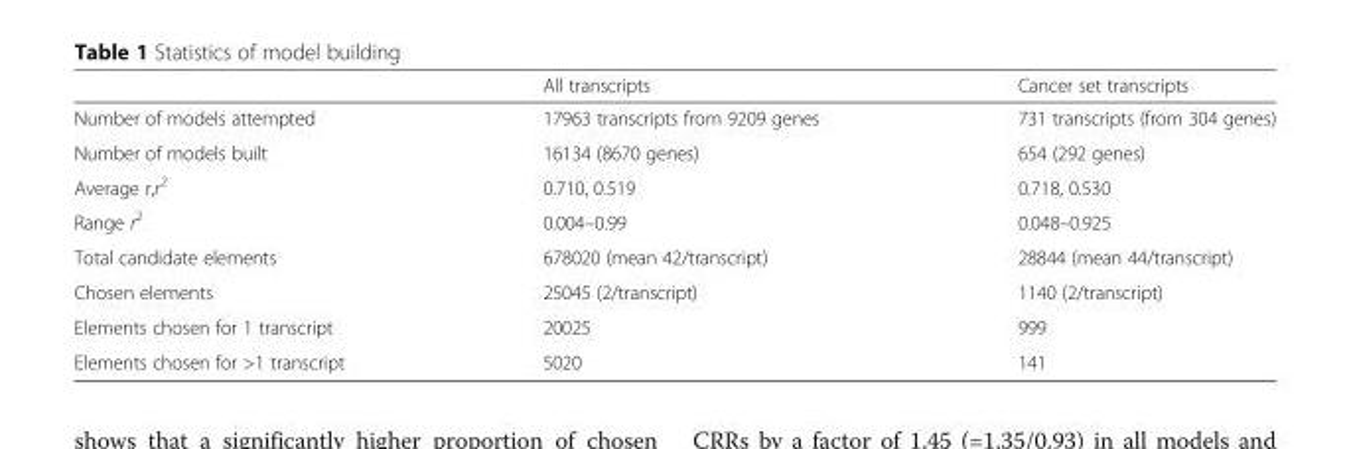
<table><thead><tr><td></td><td>All transcripts</td><td>Cancer set transcripts</td></tr></thead><tbody><tr><td>Number of models attempted</td><td>17963 transcripts from 9209 genes</td><td>731 transcripts (from 304 genes)</td></tr><tr><td>Number of models built</td><td>16134 (8670 genes)</td><td>654 (292 genes)</td></tr><tr><td>Average r,r<sup>2</sup></td><td>0.710, 0.519</td><td>0.718, 0.530</td></tr><tr><td>Range r<sup>2</sup></td><td>0.004–0.99</td><td>0.048–0.925</td></tr><tr><td>Total candidate elements</td><td>678020 (mean 42/transcript)</td><td>28844 (mean 44/transcript)</td></tr><tr><td>Chosen elements</td><td>25045 (2/transcript)</td><td>1140 (2/transcript)</td></tr><tr><td>Elements chosen for 1 transcript</td><td>20025</td><td>999</td></tr><tr><td>Elements chosen for &gt;1 transcript</td><td>5020</td><td>141</td></tr></tbody></table>